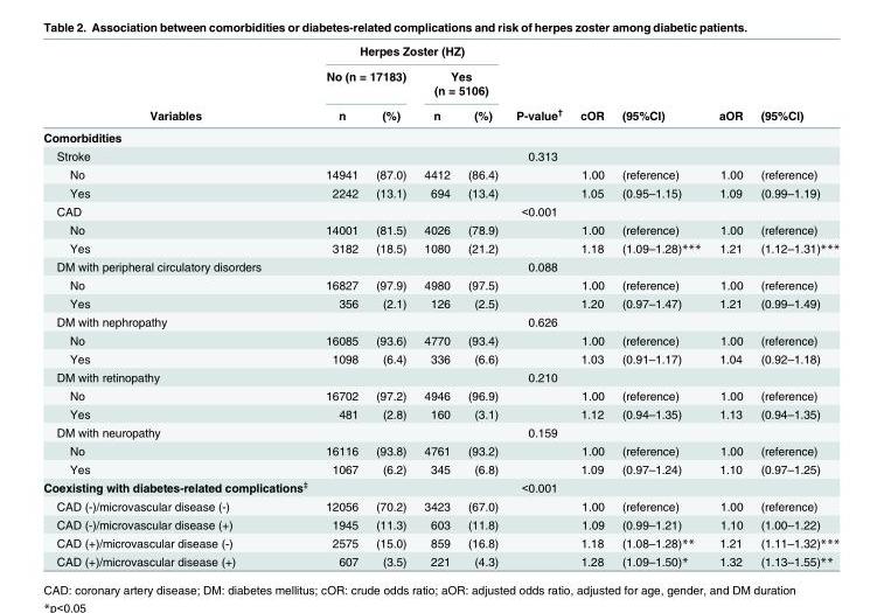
<table><thead><tr><td rowspan="3">Variables</td><td colspan="4">Herpes Zoster (HZ)</td><td rowspan="3">P-value<sup>†</sup></td><td rowspan="3">cOR</td><td rowspan="3">(95%CI)</td><td rowspan="3">aOR</td><td rowspan="3">(95%CI)</td></tr><tr><td colspan="2">No (n = 17183)</td><td colspan="2">Yes (n = 5106)</td></tr><tr><td>n</td><td>(%)</td><td>n</td><td>(%)</td></tr></thead><tbody><tr><td colspan="10">Comorbidities</td></tr><tr><td>Stroke</td><td></td><td></td><td></td><td></td><td>0.313</td><td></td><td></td><td></td><td></td></tr><tr><td>No</td><td>14941</td><td>(87.0)</td><td>4412</td><td>(86.4)</td><td></td><td>1.00</td><td>(reference)</td><td>1.00</td><td>(reference)</td></tr><tr><td>Yes</td><td>2242</td><td>(13.1)</td><td>694</td><td>(13.4)</td><td></td><td>1.05</td><td>(0.95–1.15)</td><td>1.09</td><td>(0.99–1.19)</td></tr><tr><td>CAD</td><td></td><td></td><td></td><td></td><td>&lt;0.001</td><td></td><td></td><td></td><td></td></tr><tr><td>No</td><td>14001</td><td>(81.5)</td><td>4026</td><td>(78.9)</td><td></td><td>1.00</td><td>(reference)</td><td>1.00</td><td>(reference)</td></tr><tr><td>Yes</td><td>3182</td><td>(18.5)</td><td>1080</td><td>(21.2)</td><td></td><td>1.18</td><td>(1.09–1.28)***</td><td>1.21</td><td>(1.12–1.31)***</td></tr><tr><td>DM with peripheral circulatory disorders</td><td></td><td></td><td></td><td></td><td>0.088</td><td></td><td></td><td></td><td></td></tr><tr><td>No</td><td>16827</td><td>(97.9)</td><td>4980</td><td>(97.5)</td><td></td><td>1.00</td><td>(reference)</td><td>1.00</td><td>(reference)</td></tr><tr><td>Yes</td><td>356</td><td>(2.1)</td><td>126</td><td>(2.5)</td><td></td><td>1.20</td><td>(0.97–1.47)</td><td>1.21</td><td>(0.99–1.49)</td></tr><tr><td>DM with nephropathy</td><td></td><td></td><td></td><td></td><td>0.626</td><td></td><td></td><td></td><td></td></tr><tr><td>No</td><td>16085</td><td>(93.6)</td><td>4770</td><td>(93.4)</td><td></td><td>1.00</td><td>(reference)</td><td>1.00</td><td>(reference)</td></tr><tr><td>Yes</td><td>1098</td><td>(6.4)</td><td>336</td><td>(6.6)</td><td></td><td>1.03</td><td>(0.91–1.17)</td><td>1.04</td><td>(0.92–1.18)</td></tr><tr><td>DM with retinopathy</td><td></td><td></td><td></td><td></td><td>0.210</td><td></td><td></td><td></td><td></td></tr><tr><td>No</td><td>16702</td><td>(97.2)</td><td>4946</td><td>(96.9)</td><td></td><td>1.00</td><td>(reference)</td><td>1.00</td><td>(reference)</td></tr><tr><td>Yes</td><td>481</td><td>(2.8)</td><td>160</td><td>(3.1)</td><td></td><td>1.12</td><td>(0.94–1.35)</td><td>1.13</td><td>(0.94–1.35)</td></tr><tr><td>DM with neuropathy</td><td></td><td></td><td></td><td></td><td>0.159</td><td></td><td></td><td></td><td></td></tr><tr><td>No</td><td>16116</td><td>(93.8)</td><td>4761</td><td>(93.2)</td><td></td><td>1.00</td><td>(reference)</td><td>1.00</td><td>(reference)</td></tr><tr><td>Yes</td><td>1067</td><td>(6.2)</td><td>345</td><td>(6.8)</td><td></td><td>1.09</td><td>(0.97–1.24)</td><td>1.10</td><td>(0.97–1.25)</td></tr><tr><td>Coexisting with diabetes-related complications<sup>‡</sup></td><td></td><td></td><td></td><td></td><td>&lt;0.001</td><td></td><td></td><td></td><td></td></tr><tr><td>CAD (-)/microvascular disease (-)</td><td>12056</td><td>(70.2)</td><td>3423</td><td>(67.0)</td><td></td><td>1.00</td><td>(reference)</td><td>1.00</td><td>(reference)</td></tr><tr><td>CAD (-)/microvascular disease (+)</td><td>1945</td><td>(11.3)</td><td>603</td><td>(11.8)</td><td></td><td>1.09</td><td>(0.99–1.21)</td><td>1.10</td><td>(1.00–1.22)</td></tr><tr><td>CAD (+)/microvascular disease (-)</td><td>2575</td><td>(15.0)</td><td>859</td><td>(16.8)</td><td></td><td>1.18</td><td>(1.08–1.28)**</td><td>1.21</td><td>(1.11–1.32)***</td></tr><tr><td>CAD (+)/microvascular disease (+)</td><td>607</td><td>(3.5)</td><td>221</td><td>(4.3)</td><td></td><td>1.28</td><td>(1.09–1.50)*</td><td>1.32</td><td>(1.13–1.55)**</td></tr></tbody></table>